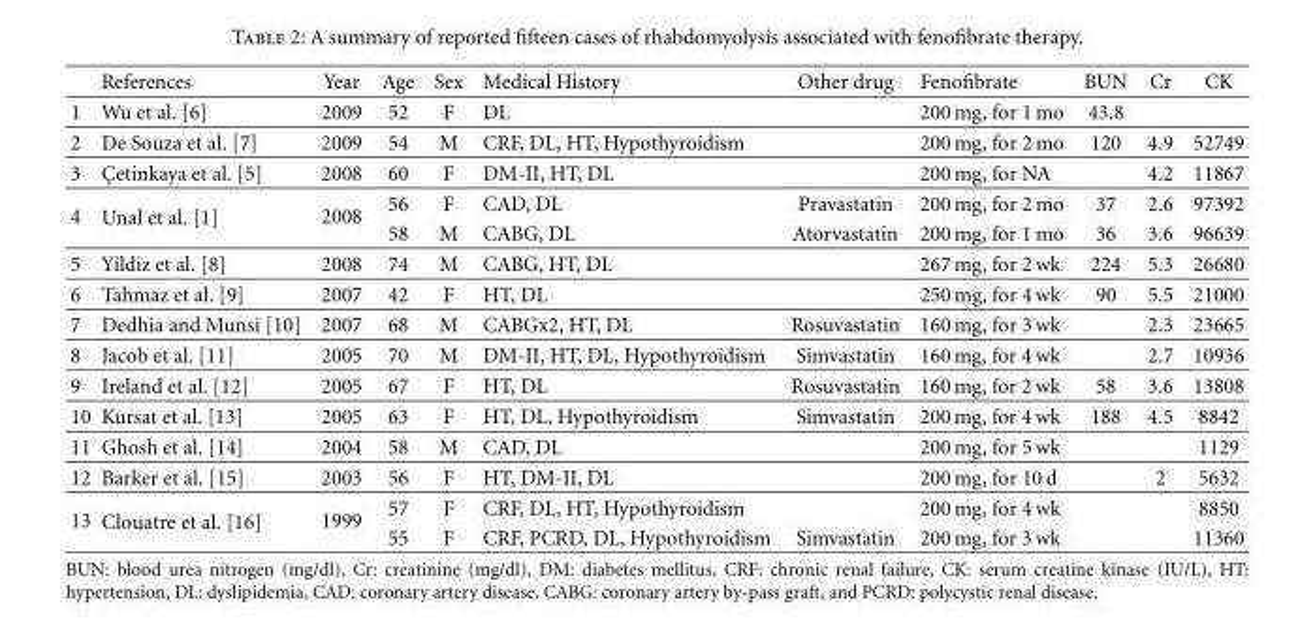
<table><thead><tr><td></td><td>References</td><td>Year</td><td>Age</td><td>Sex</td><td>Medical History</td><td>Other drug</td><td>Fenofibrate</td><td>BUN</td><td>Cr</td><td>CK</td></tr></thead><tbody><tr><td>1</td><td>Wu et al. [6]</td><td>2009</td><td>52</td><td>F</td><td>DL</td><td></td><td>200 mg, for 1 mo</td><td>43.8</td><td></td><td></td></tr><tr><td>2</td><td>De Souza et al. [7]</td><td>2009</td><td>54</td><td>M</td><td>CRF, DL, HT, Hypothyroidism</td><td></td><td>200 mg, for 2 mo</td><td>120</td><td>4.9</td><td>52749</td></tr><tr><td>3</td><td>C¸ etinkaya et al. [5]</td><td>2008</td><td>60</td><td>F</td><td>DM-II, HT, DL</td><td></td><td>200 mg, for NA</td><td></td><td>4.2</td><td>11867</td></tr><tr><td rowspan="2">4</td><td rowspan="2">Unal et al. [1]</td><td rowspan="2">2008</td><td>56</td><td>F</td><td>CAD, DL</td><td>Pravastatin</td><td>200 mg, for 2 mo</td><td>37</td><td>2.6</td><td>97392</td></tr><tr><td>58</td><td>M</td><td>CABG, DL</td><td>Atorvastatin</td><td>200 mg, for 1 mo</td><td>36</td><td>3.6</td><td>96639</td></tr><tr><td>5</td><td>Yildiz et al. [8]</td><td>2008</td><td>74</td><td>M</td><td>CABG, HT, DL</td><td></td><td>267 mg, for 2 wk</td><td>224</td><td>5.3</td><td>26680</td></tr><tr><td>6</td><td>Tahmaz et al. [9]</td><td>2007</td><td>42</td><td>F</td><td>HT, DL</td><td></td><td>250 mg, for 4 wk</td><td>90</td><td>5.5</td><td>21000</td></tr><tr><td>7</td><td>Dedhia and Munsi [10]</td><td>2007</td><td>68</td><td>M</td><td>CABGx2, HT, DL</td><td>Rosuvastatin</td><td>160 mg, for 3 wk</td><td></td><td>2.3</td><td>23665</td></tr><tr><td>8</td><td>Jacob et al. [11]</td><td>2005</td><td>70</td><td>M</td><td>DM-II, HT, DL, Hypothyroidism</td><td>Simvastatin</td><td>160 mg, for 4 wk</td><td></td><td>2.7</td><td>10936</td></tr><tr><td>9</td><td>Ireland et al. [12]</td><td>2005</td><td>67</td><td>F</td><td>HT, DL</td><td>Rosuvastatin</td><td>160 mg, for 2 wk</td><td>58</td><td>3.6</td><td>13808</td></tr><tr><td>10</td><td>Kursat et al. [13]</td><td>2005</td><td>63</td><td>F</td><td>HT, DL, Hypothyroidism</td><td>Simvastatin</td><td>200 mg, for 4 wk</td><td>188</td><td>4.5</td><td>8842</td></tr><tr><td>11</td><td>Ghosh et al. [14]</td><td>2004</td><td>58</td><td>M</td><td>CAD, DL</td><td></td><td>200 mg, for 5 wk</td><td></td><td></td><td>1129</td></tr><tr><td>12</td><td>Barker et al. [15]</td><td>2003</td><td>56</td><td>F</td><td>HT, DM-II, DL</td><td></td><td>200 mg, for 10 d</td><td></td><td>2</td><td>5632</td></tr><tr><td rowspan="2">13</td><td rowspan="2">Clouatre et al. [16]</td><td rowspan="2">1999</td><td>57</td><td>F</td><td>CRF, DL, HT, Hypothyroidism</td><td></td><td>200 mg, for 4 wk</td><td></td><td></td><td>8850</td></tr><tr><td>55</td><td>F</td><td>CRF, PCRD, DL, Hypothyroidism</td><td>Simvastatin</td><td>200 mg, for 3 wk</td><td></td><td></td><td>11360</td></tr></tbody></table>